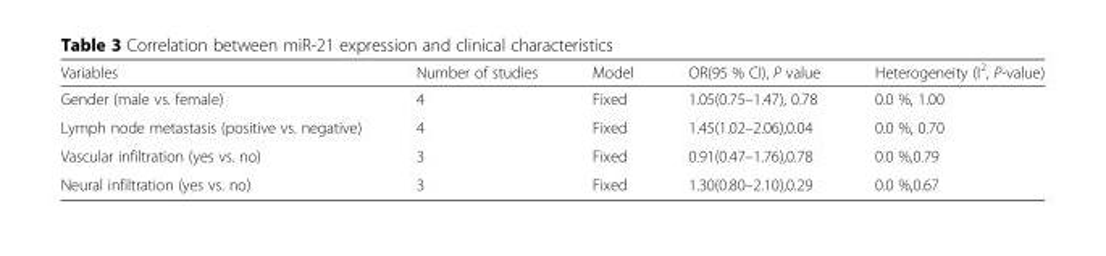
<table><thead><tr><td>Variables</td><td>Number of studies</td><td>Model</td><td>OR(95 % CI), P value</td><td>Heterogeneity (I<sup>2</sup>, P-value)</td></tr></thead><tbody><tr><td>Gender (male vs. female)</td><td>4</td><td>Fixed</td><td>1.05(0.75–1.47), 0.78</td><td>0.0 %, 1.00</td></tr><tr><td>Lymph node metastasis (positive vs. negative)</td><td>4</td><td>Fixed</td><td>1.45(1.02–2.06),0.04</td><td>0.0 %, 0.70</td></tr><tr><td>Vascular infiltration (yes vs. no)</td><td>3</td><td>Fixed</td><td>0.91(0.47–1.76),0.78</td><td>0.0 %,0.79</td></tr><tr><td>Neural infiltration (yes vs. no)</td><td>3</td><td>Fixed</td><td>1.30(0.80–2.10),0.29</td><td>0.0 %,0.67</td></tr></tbody></table>